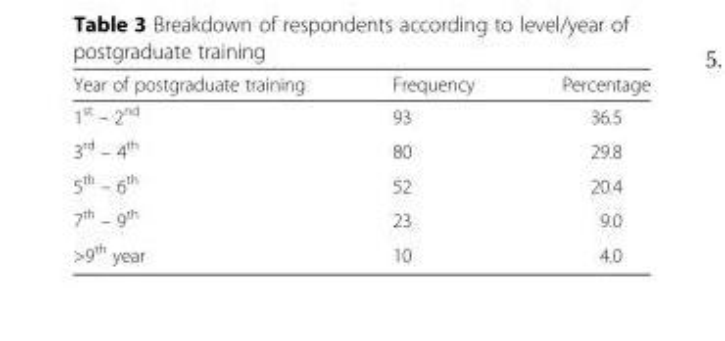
<table><thead><tr><td>Year of postgraduate training</td><td>Frequency</td><td>Percentage</td></tr></thead><tbody><tr><td>1<sup>st</sup> – 2<sup>nd</sup></td><td>93</td><td>36.5</td></tr><tr><td>3<sup>rd</sup> – 4<sup>th</sup></td><td>80</td><td>29.8</td></tr><tr><td>5<sup>th</sup> – 6<sup>th</sup></td><td>52</td><td>20.4</td></tr><tr><td>7<sup>th</sup> – 9<sup>th</sup></td><td>23</td><td>9.0</td></tr><tr><td>&gt;9<sup>th</sup> year</td><td>10</td><td>4.0</td></tr></tbody></table>